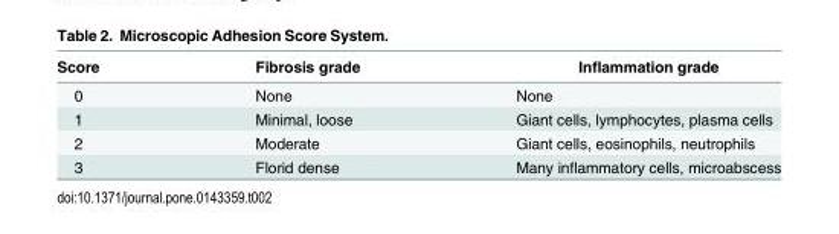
<table><thead><tr><td>Score</td><td>Fibrosis grade</td><td>Inflammation grade</td></tr></thead><tbody><tr><td>0</td><td>None</td><td>None</td></tr><tr><td>1</td><td>Minimal, loose</td><td>Giant cells, lymphocytes, plasma cells</td></tr><tr><td>2</td><td>Moderate</td><td>Giant cells, eosinophils, neutrophils</td></tr><tr><td>3</td><td>Florid dense</td><td>Many inflammatory cells, microabscess</td></tr></tbody></table>